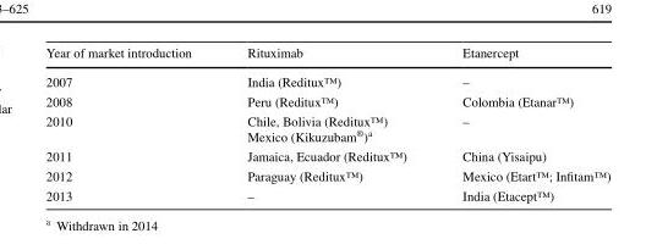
<table><thead><tr><td>Year of market introduction</td><td>Rituximab</td><td>Etanercept</td></tr></thead><tbody><tr><td>2007</td><td>India (Reditux™)</td><td>–</td></tr><tr><td>2008</td><td>Peru (Reditux™)</td><td>Colombia (Etanar™)</td></tr><tr><td>2010</td><td>Chile, Bolivia (Reditux™) Mexico (Kikuzubam<sup>®</sup>)<sup>a</sup></td><td>–</td></tr><tr><td>2011</td><td>Jamaica, Ecuador (Reditux™)</td><td>China (Yisaipu)</td></tr><tr><td>2012</td><td>Paraguay (Reditux™)</td><td>Mexico (Etart™; Infitam™)</td></tr><tr><td>2013</td><td>–</td><td>India (Etacept™)</td></tr></tbody></table>